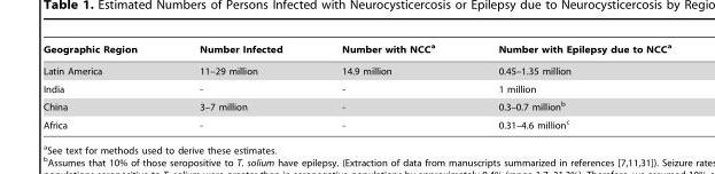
<table><thead><tr><td>Geographic Region</td><td>Number Infected</td><td>Number with NCC<sup>a</sup></td><td>Number with Epilepsy due to NCC<sup>a</sup></td></tr></thead><tbody><tr><td>Latin America</td><td>11–29 million</td><td>14.9 million</td><td>0.45–1.35 million</td></tr><tr><td>India</td><td>-</td><td>-</td><td>1 million</td></tr><tr><td>China</td><td>3–7 million</td><td>-</td><td>0.3–0.7 million<sup>b</sup></td></tr><tr><td>Africa</td><td>-</td><td>-</td><td>0.31–4.6 million<sup>c</sup></td></tr></tbody></table>